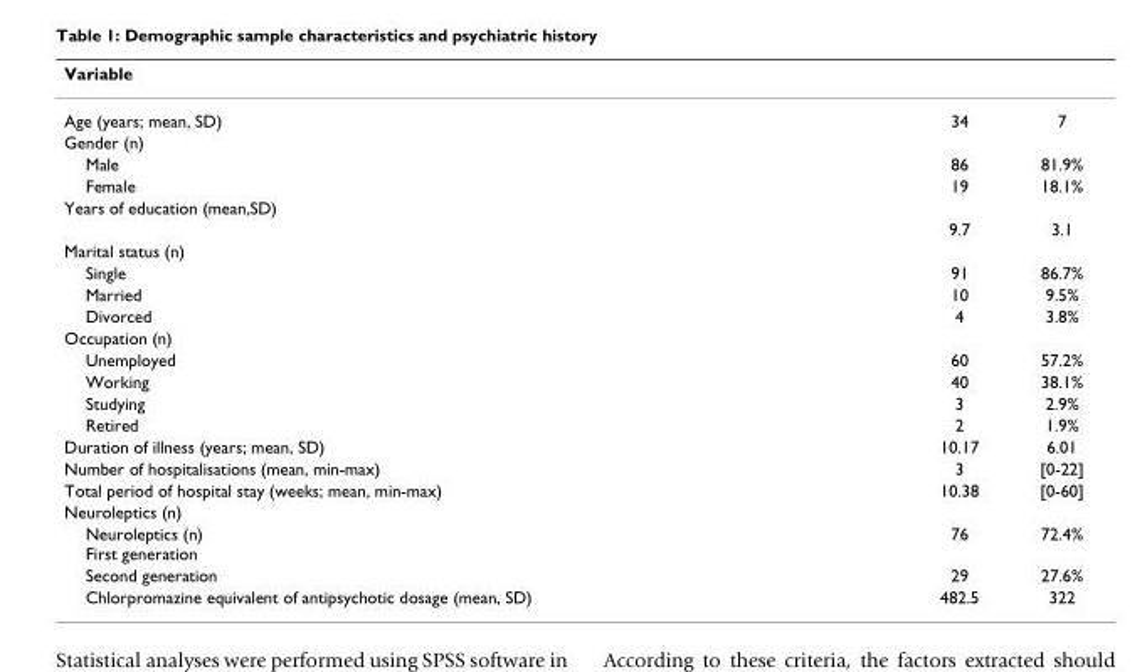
<table><thead><tr><td>Variable</td><td></td><td></td></tr></thead><tbody><tr><td>Age (years; mean, SD)</td><td>34</td><td>7</td></tr><tr><td colspan="3">Gender (n)</td></tr><tr><td>Male</td><td>86</td><td>81.9%</td></tr><tr><td>Female</td><td>19</td><td>18.1%</td></tr><tr><td colspan="3">Years of education (mean,SD)</td></tr><tr><td></td><td>9.7</td><td>3.1</td></tr><tr><td colspan="3">Marital status (n)</td></tr><tr><td>Single</td><td>91</td><td>86.7%</td></tr><tr><td>Married</td><td>10</td><td>9.5%</td></tr><tr><td>Divorced</td><td>4</td><td>3.8%</td></tr><tr><td colspan="3">Occupation (n)</td></tr><tr><td>Unemployed</td><td>60</td><td>57.2%</td></tr><tr><td>Working</td><td>40</td><td>38.1%</td></tr><tr><td>Studying</td><td>3</td><td>2.9%</td></tr><tr><td>Retired</td><td>2</td><td>1.9%</td></tr><tr><td>Duration of illness (years; mean, SD)</td><td>10.17</td><td>6.01</td></tr><tr><td>Number of hospitalisations (mean, min-max)</td><td>3</td><td>[0-22]</td></tr><tr><td>Total period of hospital stay (weeks; mean, min-max)</td><td>10.38</td><td>[0-60]</td></tr><tr><td colspan="3">Neuroleptics (n)</td></tr><tr><td>Neuroleptics (n) First generation</td><td>76</td><td>72.4%</td></tr><tr><td>Second generation</td><td>29</td><td>27.6%</td></tr><tr><td>Chlorpromazine equivalent of antipsychotic dosage (mean, SD)</td><td>482.5</td><td>322</td></tr></tbody></table>